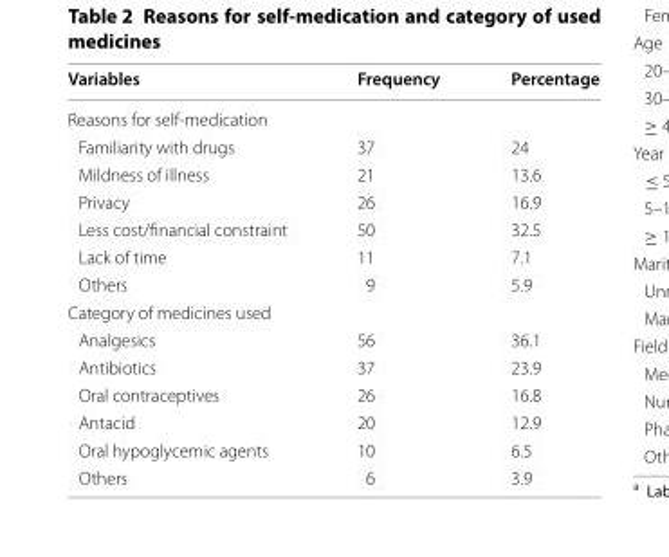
<table><thead><tr><td>Variables</td><td>Frequency</td><td>Percentage</td></tr></thead><tbody><tr><td colspan="3">Reasons for self-medication</td></tr><tr><td>Familiarity with drugs</td><td>37</td><td>24</td></tr><tr><td>Mildness of illness</td><td>21</td><td>13.6</td></tr><tr><td>Privacy</td><td>26</td><td>16.9</td></tr><tr><td>Less cost/financial constraint</td><td>50</td><td>32.5</td></tr><tr><td>Lack of time</td><td>11</td><td>7.1</td></tr><tr><td>Others</td><td>9</td><td>5.9</td></tr><tr><td colspan="3">Category of medicines used</td></tr><tr><td>Analgesics</td><td>56</td><td>36.1</td></tr><tr><td>Antibiotics</td><td>37</td><td>23.9</td></tr><tr><td>Oral contraceptives</td><td>26</td><td>16.8</td></tr><tr><td>Antacid</td><td>20</td><td>12.9</td></tr><tr><td>Oral hypoglycemic agents</td><td>10</td><td>6.5</td></tr><tr><td>Others</td><td>6</td><td>3.9</td></tr></tbody></table>